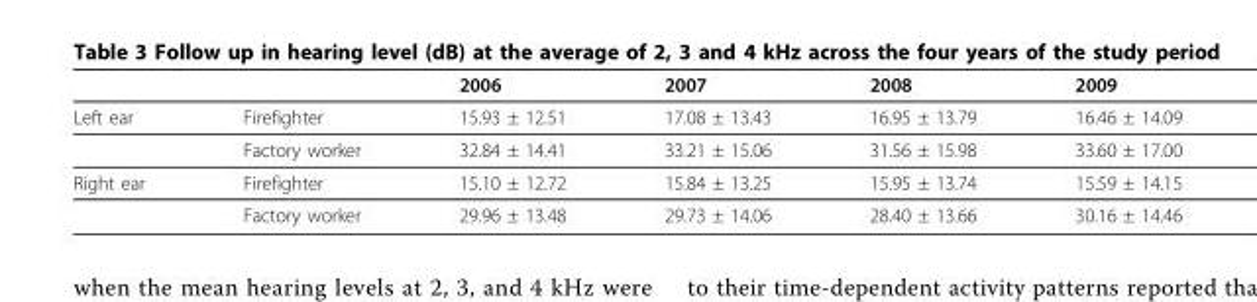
<table><thead><tr><td></td><td></td><td>2006</td><td>2007</td><td>2008</td><td>2009</td></tr></thead><tbody><tr><td rowspan="2">Left ear</td><td>Firefighter</td><td>15.93 ± 12.51</td><td>17.08 ± 13.43</td><td>16.95 ± 13.79</td><td>16.46 ± 14.09</td></tr><tr><td>Factory worker</td><td>32.84 ± 14.41</td><td>33.21 ± 15.06</td><td>31.56 ± 15.98</td><td>33.60 ± 17.00</td></tr><tr><td rowspan="2">Right ear</td><td>Firefighter</td><td>15.10 ± 12.72</td><td>15.84 ± 13.25</td><td>15.95 ± 13.74</td><td>15.59 ± 14.15</td></tr><tr><td>Factory worker</td><td>29.96 ± 13.48</td><td>29.73 ± 14.06</td><td>28.40 ± 13.66</td><td>30.16 ± 14.46</td></tr></tbody></table>